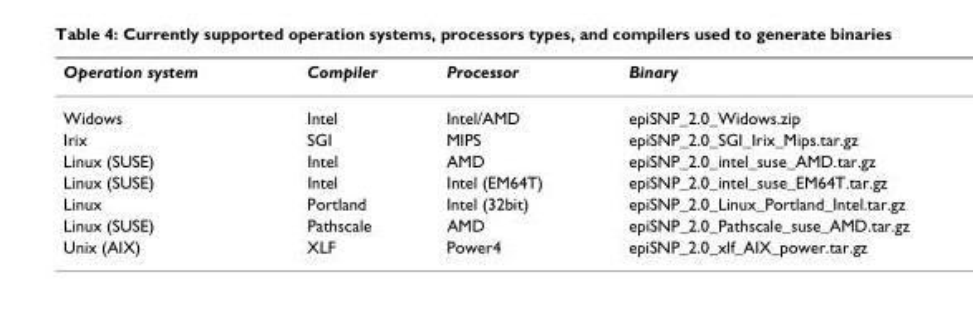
<table><thead><tr><td>Operation system</td><td>Compiler</td><td>Processor</td><td>Binary</td></tr></thead><tbody><tr><td>Widows</td><td>Intel</td><td>Intel/AMD</td><td>epiSNP_2.0_Widows.zip</td></tr><tr><td>Irix</td><td>SGI</td><td>MIPS</td><td>epiSNP_2.0_SGI_Irix_Mips.tar.gz</td></tr><tr><td>Linux (SUSE)</td><td>Intel</td><td>AMD</td><td>epiSNP_2.0_intel_suse_AMD.tar.gz</td></tr><tr><td>Linux (SUSE)</td><td>Intel</td><td>Intel (EM64T)</td><td>epiSNP_2.0_intel_suse_EM64T.tar.gz</td></tr><tr><td>Linux</td><td>Portland</td><td>Intel (32bit)</td><td>epiSNP_2.0_Linux_Portland_Intel.tar.gz</td></tr><tr><td>Linux (SUSE)</td><td>Pathscale</td><td>AMD</td><td>epiSNP_2.0_Pathscale_suse_AMD.tar.gz</td></tr><tr><td>Unix (AIX)</td><td>XLF</td><td>Power4</td><td>epiSNP_2.0_xlf_AIX_power.tar.gz</td></tr></tbody></table>